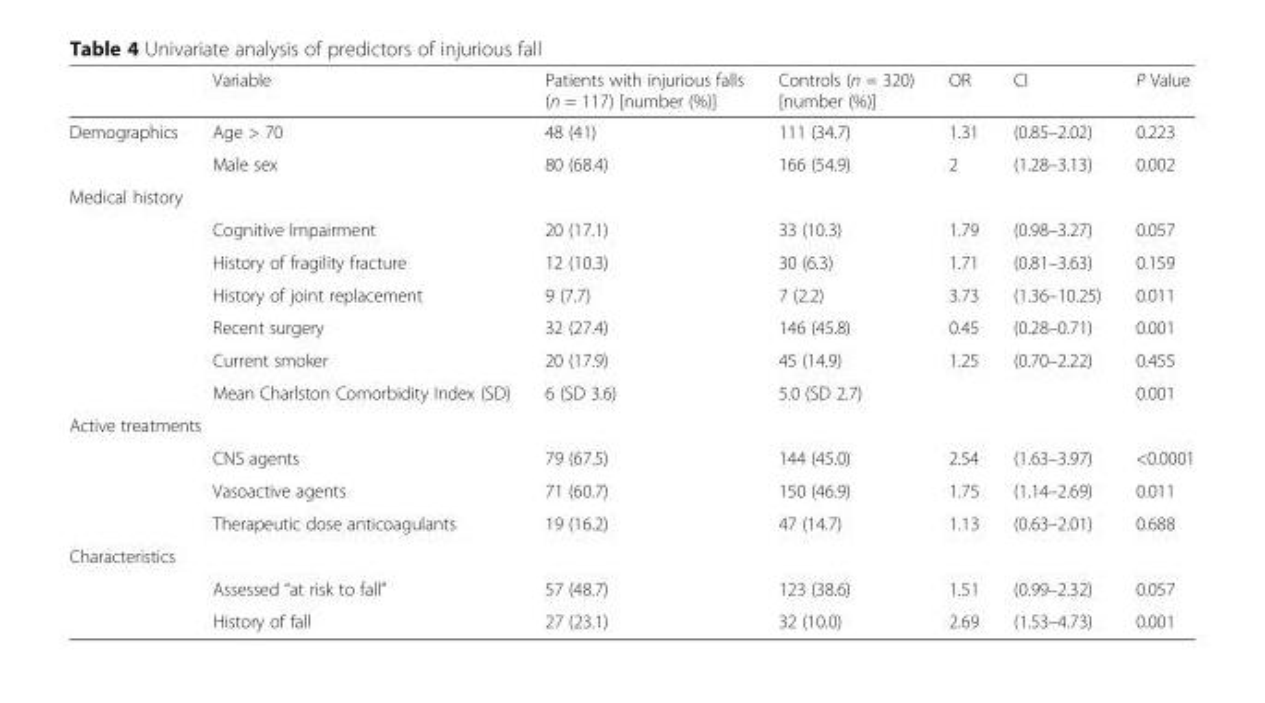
<table><thead><tr><td></td><td>Variable</td><td>Patients with injurious falls (n = 117) [number (%)]</td><td>Controls (n = 320) [number (%)]</td><td>OR</td><td>CI</td><td>P Value</td></tr></thead><tbody><tr><td rowspan="2">Demographics</td><td>Age &gt; 70</td><td>48 (41)</td><td>111 (34.7)</td><td>1.31</td><td>(0.85–2.02)</td><td>0.223</td></tr><tr><td>Male sex</td><td>80 (68.4)</td><td>166 (54.9)</td><td>2</td><td>(1.28–3.13)</td><td>0.002</td></tr><tr><td colspan="7">Medical history</td></tr><tr><td></td><td>Cognitive Impairment</td><td>20 (17.1)</td><td>33 (10.3)</td><td>1.79</td><td>(0.98–3.27)</td><td>0.057</td></tr><tr><td></td><td>History of fragility fracture</td><td>12 (10.3)</td><td>30 (6.3)</td><td>1.71</td><td>(0.81–3.63)</td><td>0.159</td></tr><tr><td></td><td>History of joint replacement</td><td>9 (7.7)</td><td>7 (2.2)</td><td>3.73</td><td>(1.36–10.25)</td><td>0.011</td></tr><tr><td></td><td>Recent surgery</td><td>32 (27.4)</td><td>146 (45.8)</td><td>0.45</td><td>(0.28–0.71)</td><td>0.001</td></tr><tr><td></td><td>Current smoker</td><td>20 (17.9)</td><td>45 (14.9)</td><td>1.25</td><td>(0.70–2.22)</td><td>0.455</td></tr><tr><td></td><td>Mean Charlston Comorbidity Index (SD)</td><td>6 (SD 3.6)</td><td>5.0 (SD 2.7)</td><td></td><td></td><td>0.001</td></tr><tr><td colspan="7">Active treatments</td></tr><tr><td></td><td>CNS agents</td><td>79 (67.5)</td><td>144 (45.0)</td><td>2.54</td><td>(1.63–3.97)</td><td>&lt;0.0001</td></tr><tr><td></td><td>Vasoactive agents</td><td>71 (60.7)</td><td>150 (46.9)</td><td>1.75</td><td>(1.14–2.69)</td><td>0.011</td></tr><tr><td></td><td>Therapeutic dose anticoagulants</td><td>19 (16.2)</td><td>47 (14.7)</td><td>1.13</td><td>(0.63–2.01)</td><td>0.688</td></tr><tr><td colspan="7">Characteristics</td></tr><tr><td></td><td>Assessed “at risk to fall”</td><td>57 (48.7)</td><td>123 (38.6)</td><td>1.51</td><td>(0.99–2.32)</td><td>0.057</td></tr><tr><td></td><td>History of fall</td><td>27 (23.1)</td><td>32 (10.0)</td><td>2.69</td><td>(1.53–4.73)</td><td>0.001</td></tr></tbody></table>